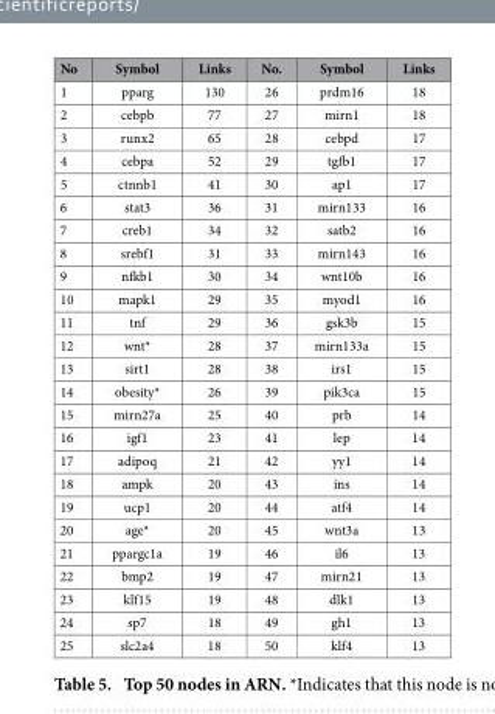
<table><thead><tr><td>No</td><td>Symbol</td><td>Links</td><td>No.</td><td>Symbol</td><td>Links</td></tr></thead><tbody><tr><td>1</td><td>pparg</td><td>130</td><td>26</td><td>prdm16</td><td>18</td></tr><tr><td>2</td><td>cebpb</td><td>77</td><td>27</td><td>mirn1</td><td>18</td></tr><tr><td>3</td><td>runx2</td><td>65</td><td>28</td><td>cebpd</td><td>17</td></tr><tr><td>4</td><td>cebpa</td><td>52</td><td>29</td><td>tgfb1</td><td>17</td></tr><tr><td>5</td><td>ctnnb1</td><td>41</td><td>30</td><td>ap1</td><td>17</td></tr><tr><td>6</td><td>stat3</td><td>36</td><td>31</td><td>mirn133</td><td>16</td></tr><tr><td>7</td><td>creb1</td><td>34</td><td>32</td><td>satb2</td><td>16</td></tr><tr><td>8</td><td>srebf1</td><td>31</td><td>33</td><td>mirn143</td><td>16</td></tr><tr><td>9</td><td>nfkb1</td><td>30</td><td>34</td><td>wnt10b</td><td>16</td></tr><tr><td>10</td><td>mapk1</td><td>29</td><td>35</td><td>myod1</td><td>16</td></tr><tr><td>11</td><td>tnf</td><td>29</td><td>36</td><td>gsk3b</td><td>15</td></tr><tr><td>12</td><td>wnt*</td><td>28</td><td>37</td><td>mirn133a</td><td>15</td></tr><tr><td>13</td><td>sirt1</td><td>28</td><td>38</td><td>irs1</td><td>15</td></tr><tr><td>14</td><td>obesity*</td><td>26</td><td>39</td><td>pik3ca</td><td>15</td></tr><tr><td>15</td><td>mirn27a</td><td>25</td><td>40</td><td>prb</td><td>14</td></tr><tr><td>16</td><td>igf1</td><td>23</td><td>41</td><td>lep</td><td>14</td></tr><tr><td>17</td><td>adipoq</td><td>21</td><td>42</td><td>yy1</td><td>14</td></tr><tr><td>18</td><td>ampk</td><td>20</td><td>43</td><td>ins</td><td>14</td></tr><tr><td>19</td><td>ucp1</td><td>20</td><td>44</td><td>atf4</td><td>14</td></tr><tr><td>20</td><td>age*</td><td>20</td><td>45</td><td>wnt3a</td><td>13</td></tr><tr><td>21</td><td>ppargc1a</td><td>19</td><td>46</td><td>il6</td><td>13</td></tr><tr><td>22</td><td>bmp2</td><td>19</td><td>47</td><td>mirn21</td><td>13</td></tr><tr><td>23</td><td>klf15</td><td>19</td><td>48</td><td>dlk1</td><td>13</td></tr><tr><td>24</td><td>sp7</td><td>18</td><td>49</td><td>gh1</td><td>13</td></tr><tr><td>25</td><td>slc2a4</td><td>18</td><td>50</td><td>klf4</td><td>13</td></tr></tbody></table>